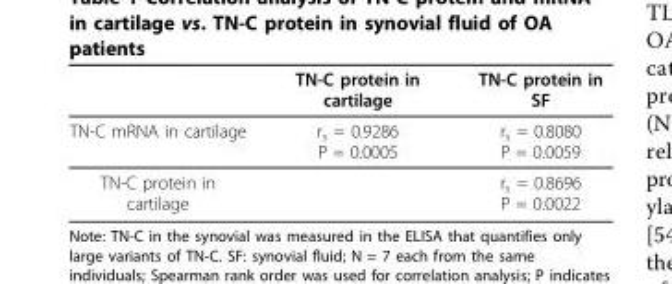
<table><thead><tr><td></td><td>TN-C protein in cartilage</td><td>TN-C protein in SF</td></tr></thead><tbody><tr><td>TN-C mRNA in cartilage</td><td>r<sub>s</sub> = 0.9286 P = 0.0005</td><td>r<sub>s</sub> = 0.8080 P = 0.0059</td></tr><tr><td>TN-C protein in cartilage</td><td></td><td>r<sub>s</sub> = 0.8696 P = 0.0022</td></tr></tbody></table>